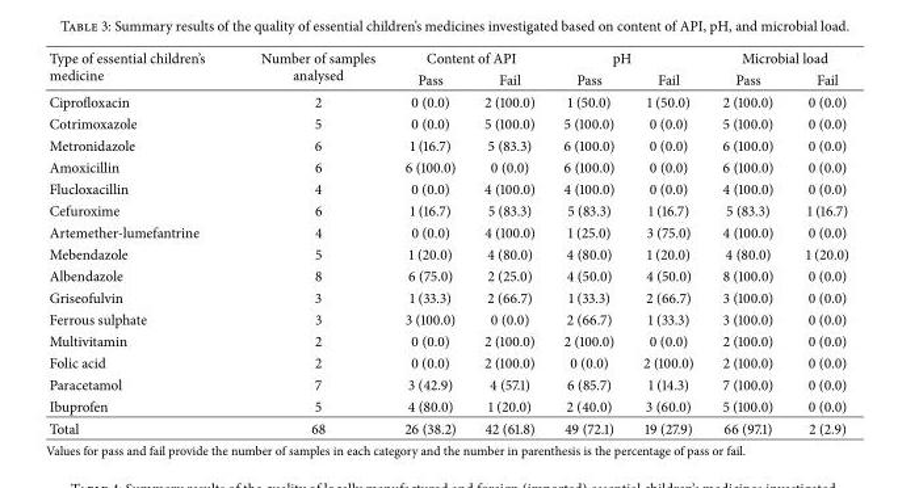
<table><thead><tr><td rowspan="2">Type of essential children’s medicine</td><td rowspan="2">Number of samples analysed</td><td colspan="2">Content of API</td><td colspan="2">pH</td><td colspan="2">Microbial load</td></tr><tr><td>Pass</td><td>Fail</td><td>Pass</td><td>Fail</td><td>Pass</td><td>Fail</td></tr></thead><tbody><tr><td>Ciprofloxacin</td><td>2</td><td>0 (0.0)</td><td>2 (100.0)</td><td>1 (50.0)</td><td>1 (50.0)</td><td>2 (100.0)</td><td>0 (0.0)</td></tr><tr><td>Cotrimoxazole</td><td>5</td><td>0 (0.0)</td><td>5 (100.0)</td><td>5 (100.0)</td><td>0 (0.0)</td><td>5 (100.0)</td><td>0 (0.0)</td></tr><tr><td>Metronidazole</td><td>6</td><td>1 (16.7)</td><td>5 (83.3)</td><td>6 (100.0)</td><td>0 (0.0)</td><td>6 (100.0)</td><td>0 (0.0)</td></tr><tr><td>Amoxicillin</td><td>6</td><td>6 (100.0)</td><td>0 (0.0)</td><td>6 (100.0)</td><td>0 (0.0)</td><td>6 (100.0)</td><td>0 (0.0)</td></tr><tr><td>Flucloxacillin</td><td>4</td><td>0 (0.0)</td><td>4 (100.0)</td><td>4 (100.0)</td><td>0 (0.0)</td><td>4 (100.0)</td><td>0 (0.0)</td></tr><tr><td>Cefuroxime</td><td>6</td><td>1 (16.7)</td><td>5 (83.3)</td><td>5 (83.3)</td><td>1 (16.7)</td><td>5 (83.3)</td><td>1 (16.7)</td></tr><tr><td>Artemether-lumefantrine</td><td>4</td><td>0 (0.0)</td><td>4 (100.0)</td><td>1 (25.0)</td><td>3 (75.0)</td><td>4 (100.0)</td><td>0 (0.0)</td></tr><tr><td>Mebendazole</td><td>5</td><td>1 (20.0)</td><td>4 (80.0)</td><td>4 (80.0)</td><td>1 (20.0)</td><td>4 (80.0)</td><td>1 (20.0)</td></tr><tr><td>Albendazole</td><td>8</td><td>6 (75.0)</td><td>2 (25.0)</td><td>4 (50.0)</td><td>4 (50.0)</td><td>8 (100.0)</td><td>0 (0.0)</td></tr><tr><td>Griseofulvin</td><td>3</td><td>1 (33.3)</td><td>2 (66.7)</td><td>1 (33.3)</td><td>2 (66.7)</td><td>3 (100.0)</td><td>0 (0.0)</td></tr><tr><td>Ferrous sulphate</td><td>3</td><td>3 (100.0)</td><td>0 (0.0)</td><td>2 (66.7)</td><td>1 (33.3)</td><td>3 (100.0)</td><td>0 (0.0)</td></tr><tr><td>Multivitamin</td><td>2</td><td>0 (0.0)</td><td>2 (100.0)</td><td>2 (100.0)</td><td>0 (0.0)</td><td>2 (100.0)</td><td>0 (0.0)</td></tr><tr><td>Folic acid</td><td>2</td><td>0 (0.0)</td><td>2 (100.0)</td><td>0 (0.0)</td><td>2 (100.0)</td><td>2 (100.0)</td><td>0 (0.0)</td></tr><tr><td>Paracetamol</td><td>7</td><td>3 (42.9)</td><td>4 (57.1)</td><td>6 (85.7)</td><td>1 (14.3)</td><td>7 (100.0)</td><td>0 (0.0)</td></tr><tr><td>Ibuprofen</td><td>5</td><td>4 (80.0)</td><td>1 (20.0)</td><td>2 (40.0)</td><td>3 (60.0)</td><td>5 (100.0)</td><td>0 (0.0)</td></tr><tr><td>Total</td><td>68</td><td>26 (38.2)</td><td>42 (61.8)</td><td>49 (72.1)</td><td>19 (27.9)</td><td>66 (97.1)</td><td>2 (2.9)</td></tr></tbody></table>